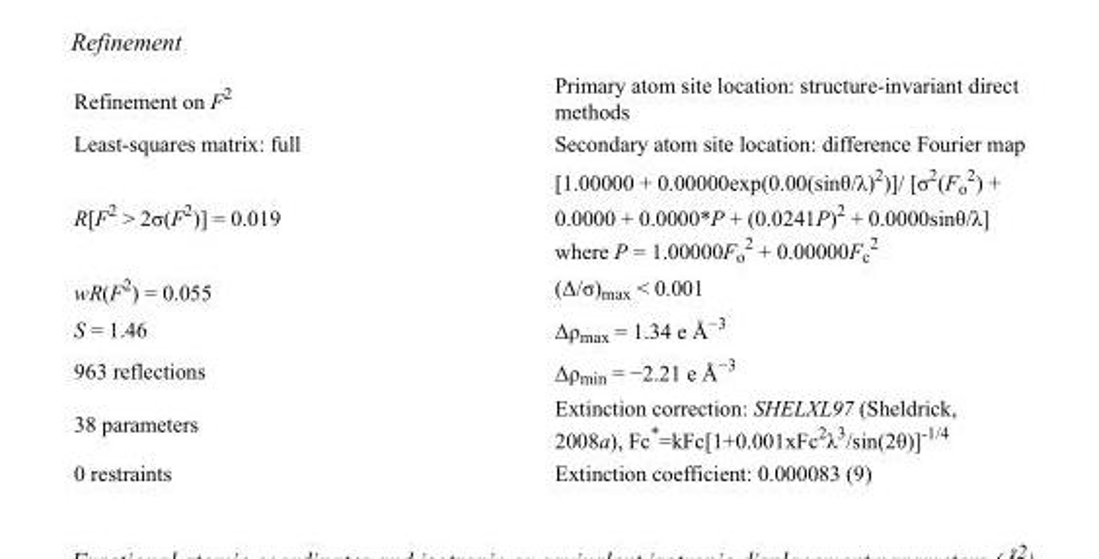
<table><tbody><tr><td>Refinement on F<sup>2</sup></td><td>Primary atom site location: structure-invariant direct methods</td></tr><tr><td>Least-squares matrix: full</td><td>Secondary atom site location: difference Fourier map</td></tr><tr><td>R[F<sup>2</sup> &gt; 2σ(F<sup>2</sup>)] = 0.019</td><td>[1.00000 + 0.00000exp(0.00(sinθ/λ)<sup>2</sup>)]/ [σ<sup>2</sup>(F<sub>o</sub> <sup>2</sup>) + 0.0000 + 0.0000*P + (0.0241P)<sup>2</sup> + 0.0000sinθ/λ] where P = 1.00000F<sub>o</sub> <sup>2</sup> + 0.00000F<sub>c</sub> <sup>2</sup></td></tr><tr><td>wR(F<sup>2</sup>) = 0.055</td><td>(Δ/σ)<sub>max</sub> &lt; 0.001</td></tr><tr><td>S = 1.46</td><td>Δρ<sub>max</sub> = 1.34 e Å<sup>−3</sup></td></tr><tr><td>963 reflections</td><td>Δρ<sub>min</sub> = −2.21 e Å<sup>−3</sup></td></tr><tr><td>38 parameters</td><td>Extinction correction: SHELXL97 (Sheldrick, 2008a), Fc*=kFc[1+0.001xFc<sup>2</sup>λ<sup>3</sup>/sin(2θ)]<sup>-1/4</sup></td></tr><tr><td>0 restraints</td><td>Extinction coefficient: 0.000083 (9)</td></tr></tbody></table>